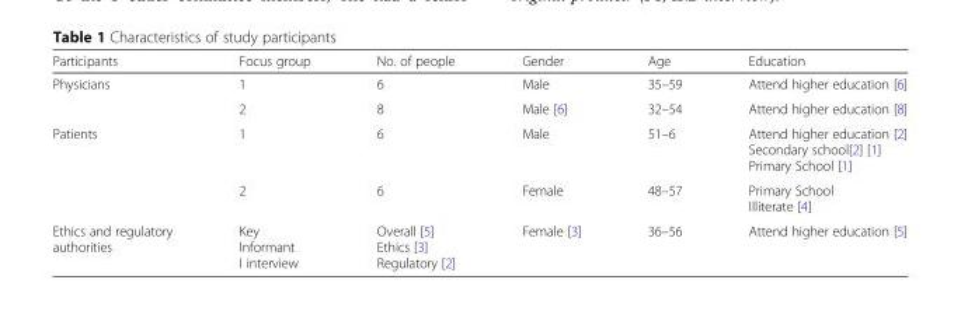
<table><thead><tr><td>Participants</td><td>Focus group</td><td>No. of people</td><td>Gender</td><td>Age</td><td>Education</td></tr></thead><tbody><tr><td rowspan="2">Physicians</td><td>1</td><td>6</td><td>Male</td><td>35–59</td><td>Attend higher education [6]</td></tr><tr><td>2</td><td>8</td><td>Male [6]</td><td>32–54</td><td>Attend higher education [8]</td></tr><tr><td rowspan="2">Patients</td><td>1</td><td>6</td><td>Male</td><td>51–6</td><td>Attend higher education [2] Secondary school[2] [1] Primary School [1]</td></tr><tr><td>2</td><td>6</td><td>Female</td><td>48–57</td><td>Primary School Illiterate [4]</td></tr><tr><td>Ethics and regulatory authorities</td><td>Key Informant I interview</td><td>Overall [5] Ethics [3] Regulatory [2]</td><td>Female [3]</td><td>36–56</td><td>Attend higher education [5]</td></tr></tbody></table>